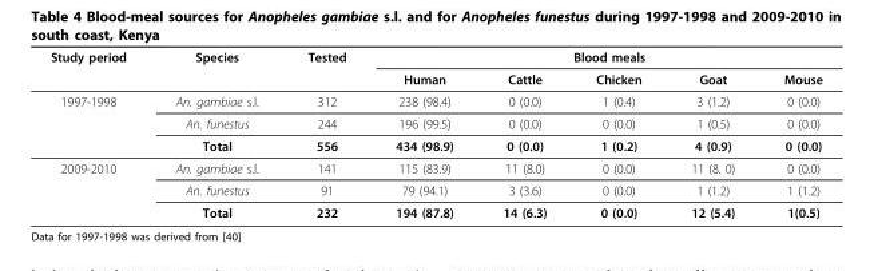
<table><thead><tr><td rowspan="2">Study period</td><td rowspan="2">Species</td><td rowspan="2">Tested</td><td colspan="5">Blood meals</td></tr><tr><td>Human</td><td>Cattle</td><td>Chicken</td><td>Goat</td><td>Mouse</td></tr></thead><tbody><tr><td rowspan="3">1997-1998</td><td>An. gambiae s.l.</td><td>312</td><td>238 (98.4)</td><td>0 (0.0)</td><td>1 (0.4)</td><td>3 (1.2)</td><td>0 (0.0)</td></tr><tr><td>An. funestus</td><td>244</td><td>196 (99.5)</td><td>0 (0.0)</td><td>0 (0.0)</td><td>1 (0.5)</td><td>0 (0.0)</td></tr><tr><td>Total</td><td>556</td><td>434 (98.9)</td><td>0 (0.0)</td><td>1 (0.2)</td><td>4 (0.9)</td><td>0 (0.0)</td></tr><tr><td rowspan="3">2009-2010</td><td>An. gambiae s.l.</td><td>141</td><td>115 (83.9)</td><td>11 (8.0)</td><td>0 (0.0)</td><td>11 (8. 0)</td><td>0 (0.0)</td></tr><tr><td>An. funestus</td><td>91</td><td>79 (94.1)</td><td>3 (3.6)</td><td>0 (0.0)</td><td>1 (1.2)</td><td>1 (1.2)</td></tr><tr><td>Total</td><td>232</td><td>194 (87.8)</td><td>14 (6.3)</td><td>0 (0.0)</td><td>12 (5.4)</td><td>1(0.5)</td></tr></tbody></table>